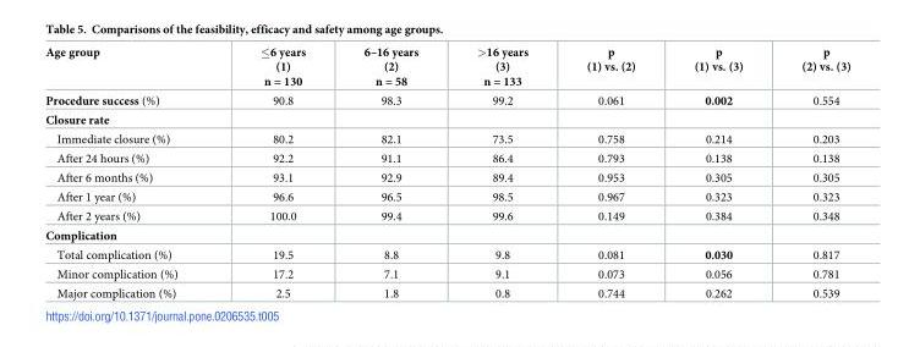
<table><thead><tr><td>Age group</td><td>≤6 years (1) n = 130</td><td>6–16 years (2) n = 58</td><td>&gt;16 years (3) n = 133</td><td>p (1) vs. (2)</td><td>p (1) vs. (3)</td><td>p (2) vs. (3)</td></tr></thead><tbody><tr><td>Procedure success (%)</td><td>90.8</td><td>98.3</td><td>99.2</td><td>0.061</td><td>0.002</td><td>0.554</td></tr><tr><td colspan="7">Closure rate</td></tr><tr><td>Immediate closure (%)</td><td>80.2</td><td>82.1</td><td>73.5</td><td>0.758</td><td>0.214</td><td>0.203</td></tr><tr><td>After 24 hours (%)</td><td>92.2</td><td>91.1</td><td>86.4</td><td>0.793</td><td>0.138</td><td>0.138</td></tr><tr><td>After 6 months (%)</td><td>93.1</td><td>92.9</td><td>89.4</td><td>0.953</td><td>0.305</td><td>0.305</td></tr><tr><td>After 1 year (%)</td><td>96.6</td><td>96.5</td><td>98.5</td><td>0.967</td><td>0.323</td><td>0.323</td></tr><tr><td>After 2 years (%)</td><td>100.0</td><td>99.4</td><td>99.6</td><td>0.149</td><td>0.384</td><td>0.348</td></tr><tr><td colspan="7">Complication</td></tr><tr><td>Total complication (%)</td><td>19.5</td><td>8.8</td><td>9.8</td><td>0.081</td><td>0.030</td><td>0.817</td></tr><tr><td>Minor complication (%)</td><td>17.2</td><td>7.1</td><td>9.1</td><td>0.073</td><td>0.056</td><td>0.781</td></tr><tr><td>Major complication (%)</td><td>2.5</td><td>1.8</td><td>0.8</td><td>0.744</td><td>0.262</td><td>0.539</td></tr></tbody></table>